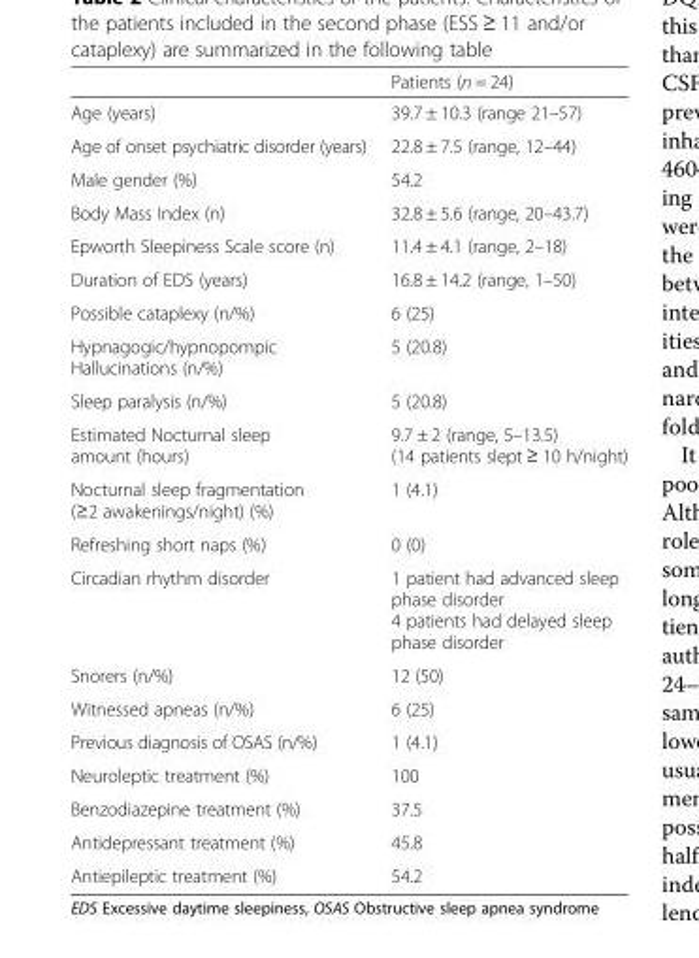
<table><thead><tr><td></td><td>Patients (n = 24)</td></tr></thead><tbody><tr><td>Age (years)</td><td>39.7 ± 10.3 (range 21–57)</td></tr><tr><td>Age of onset psychiatric disorder (years)</td><td>22.8 ± 7.5 (range, 12–44)</td></tr><tr><td>Male gender (%)</td><td>54.2</td></tr><tr><td>Body Mass Index (n)</td><td>32.8 ± 5.6 (range, 20–43.7)</td></tr><tr><td>Epworth Sleepiness Scale score (n)</td><td>11.4 ± 4.1 (range, 2–18)</td></tr><tr><td>Duration of EDS (years)</td><td>16.8 ± 14.2 (range, 1–50)</td></tr><tr><td>Possible cataplexy (n/%)</td><td>6 (25)</td></tr><tr><td>Hypnagogic/hypnopompic Hallucinations (n/%)</td><td>5 (20.8)</td></tr><tr><td>Sleep paralysis (n/%)</td><td>5 (20.8)</td></tr><tr><td>Estimated Nocturnal sleep amount (hours)</td><td>9.7 ± 2 (range, 5–13.5) (14 patients slept ≥ 10 h/night)</td></tr><tr><td>Nocturnal sleep fragmentation (≥2 awakenings/night) (%)</td><td>1 (4.1)</td></tr><tr><td>Refreshing short naps (%)</td><td>0 (0)</td></tr><tr><td>Circadian rhythm disorder</td><td>1 patient had advanced sleep phase disorder 4 patients had delayed sleep phase disorder</td></tr><tr><td>Snorers (n/%)</td><td>12 (50)</td></tr><tr><td>Witnessed apneas (n/%)</td><td>6 (25)</td></tr><tr><td>Previous diagnosis of OSAS (n/%)</td><td>1 (4.1)</td></tr><tr><td>Neuroleptic treatment (%)</td><td>100</td></tr><tr><td>Benzodiazepine treatment (%)</td><td>37.5</td></tr><tr><td>Antidepressant treatment (%)</td><td>45.8</td></tr><tr><td>Antiepileptic treatment (%)</td><td>54.2</td></tr></tbody></table>